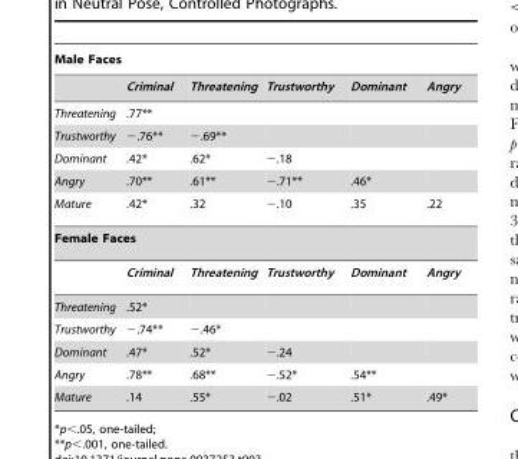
<table><thead><tr><td colspan="6">Male Faces</td></tr><tr><td></td><td>Criminal</td><td>Threatening</td><td>Trustworthy</td><td>Dominant</td><td>Angry</td></tr></thead><tbody><tr><td>Threatening</td><td>.77**</td><td></td><td></td><td></td><td></td></tr><tr><td>Trustworthy</td><td>−.76**</td><td>−.69**</td><td></td><td></td><td></td></tr><tr><td>Dominant</td><td>.42*</td><td>.62*</td><td>−.18</td><td></td><td></td></tr><tr><td>Angry</td><td>.70**</td><td>.61**</td><td>−.71**</td><td>.46*</td><td></td></tr><tr><td>Mature</td><td>.42*</td><td>.32</td><td>−.10</td><td>.35</td><td>.22</td></tr><tr><td colspan="6">Female Faces</td></tr><tr><td></td><td>Criminal</td><td>Threatening</td><td>Trustworthy</td><td>Dominant</td><td>Angry</td></tr><tr><td>Threatening</td><td>.52*</td><td></td><td></td><td></td><td></td></tr><tr><td>Trustworthy</td><td>−.74**</td><td>−.46*</td><td></td><td></td><td></td></tr><tr><td>Dominant</td><td>.47*</td><td>.52*</td><td>−.24</td><td></td><td></td></tr><tr><td>Angry</td><td>.78**</td><td>.68**</td><td>−.52*</td><td>.54**</td><td></td></tr><tr><td>Mature</td><td>.14</td><td>.55*</td><td>−.02</td><td>.51*</td><td>.49*</td></tr></tbody></table>